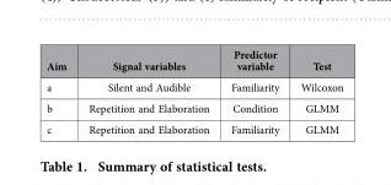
<table><thead><tr><td>Aim</td><td>Signal variables</td><td>Predictor variable</td><td>Test</td></tr></thead><tbody><tr><td>a</td><td>Silent and Audible</td><td>Familiarity</td><td>Wilcoxon</td></tr><tr><td>b</td><td>Repetition and Elaboration</td><td>Condition</td><td>GLMM</td></tr><tr><td>c</td><td>Repetition and Elaboration</td><td>Familiarity</td><td>GLMM</td></tr></tbody></table>